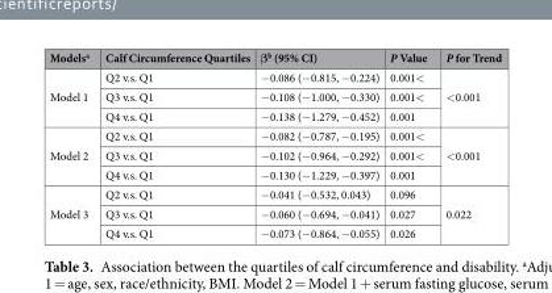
<table><thead><tr><td>Models<sup>a</sup></td><td>Calf Circumference Quartiles</td><td>β<sup>b</sup> (95% CI)</td><td>P Value</td><td>P for Trend</td></tr></thead><tbody><tr><td rowspan="3">Model 1</td><td>Q2 v.s. Q1</td><td>−0.086 (−0.815, −0.224)</td><td>0.001&lt;</td><td rowspan="3">&lt;0.001</td></tr><tr><td>Q3 v.s. Q1</td><td>−0.108 (−1.000, −0.330)</td><td>0.001&lt;</td></tr><tr><td>Q4 v.s. Q1</td><td>−0.138 (−1.279, −0.452)</td><td>0.001</td></tr><tr><td rowspan="3">Model 2</td><td>Q2 v.s. Q1</td><td>−0.082 (−0.787, −0.195)</td><td>0.001&lt;</td><td rowspan="3">&lt;0.001</td></tr><tr><td>Q3 v.s. Q1</td><td>−0.102 (−0.964, −0.292)</td><td>0.001&lt;</td></tr><tr><td>Q4 v.s. Q1</td><td>−0.130 (−1.229, −0.397)</td><td>0.001</td></tr><tr><td rowspan="3">Model 3</td><td>Q2 v.s. Q1</td><td>−0.041 (−0.532, 0.043)</td><td>0.096</td><td rowspan="3">0.022</td></tr><tr><td>Q3 v.s. Q1</td><td>−0.060 (−0.694, −0.041)</td><td>0.027</td></tr><tr><td>Q4 v.s. Q1</td><td>−0.073 (−0.864, −0.055)</td><td>0.026</td></tr></tbody></table>